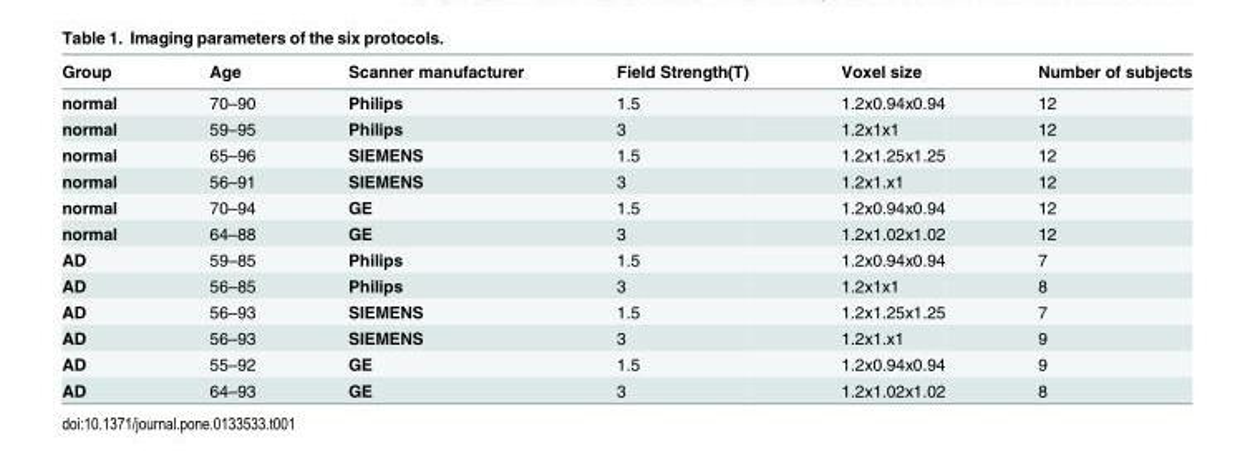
<table><thead><tr><td>Group</td><td>Age</td><td>Scanner manufacturer</td><td>Field Strength(T)</td><td>Voxel size</td><td>Number of subjects</td></tr></thead><tbody><tr><td>normal</td><td>70–90</td><td>Philips</td><td>1.5</td><td>1.2x0.94x0.94</td><td>12</td></tr><tr><td>normal</td><td>59–95</td><td>Philips</td><td>3</td><td>1.2x1x1</td><td>12</td></tr><tr><td>normal</td><td>65–96</td><td>SIEMENS</td><td>1.5</td><td>1.2x1.25x1.25</td><td>12</td></tr><tr><td>normal</td><td>56–91</td><td>SIEMENS</td><td>3</td><td>1.2x1.x1</td><td>12</td></tr><tr><td>normal</td><td>70–94</td><td>GE</td><td>1.5</td><td>1.2x0.94x0.94</td><td>12</td></tr><tr><td>normal</td><td>64–88</td><td>GE</td><td>3</td><td>1.2x1.02x1.02</td><td>12</td></tr><tr><td>AD</td><td>59–85</td><td>Philips</td><td>1.5</td><td>1.2x0.94x0.94</td><td>7</td></tr><tr><td>AD</td><td>56–85</td><td>Philips</td><td>3</td><td>1.2x1x1</td><td>8</td></tr><tr><td>AD</td><td>56–93</td><td>SIEMENS</td><td>1.5</td><td>1.2x1.25x1.25</td><td>7</td></tr><tr><td>AD</td><td>56–93</td><td>SIEMENS</td><td>3</td><td>1.2x1.x1</td><td>9</td></tr><tr><td>AD</td><td>55–92</td><td>GE</td><td>1.5</td><td>1.2x0.94x0.94</td><td>9</td></tr><tr><td>AD</td><td>64–93</td><td>GE</td><td>3</td><td>1.2x1.02x1.02</td><td>8</td></tr></tbody></table>